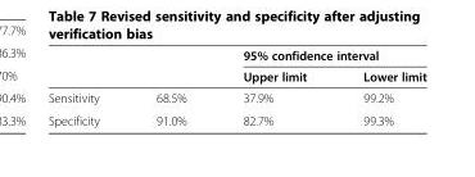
<table><thead><tr><td rowspan="2"></td><td rowspan="2"></td><td colspan="2">95% confidence interval</td></tr><tr><td>Upper limit</td><td>Lower limit</td></tr></thead><tbody><tr><td>Sensitivity</td><td>68.5%</td><td>37.9%</td><td>99.2%</td></tr><tr><td>Specificity</td><td>91.0%</td><td>82.7%</td><td>99.3%</td></tr></tbody></table>